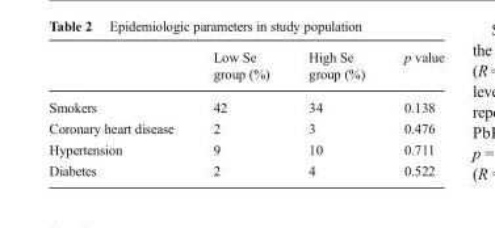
<table><thead><tr><td></td><td>Low Se group (%)</td><td>High Se group (%)</td><td>p value</td></tr></thead><tbody><tr><td>Smokers</td><td>42</td><td>34</td><td>0.138</td></tr><tr><td>Coronary heart disease</td><td>2</td><td>3</td><td>0.476</td></tr><tr><td>Hypertension</td><td>9</td><td>10</td><td>0.711</td></tr><tr><td>Diabetes</td><td>2</td><td>4</td><td>0.522</td></tr></tbody></table>